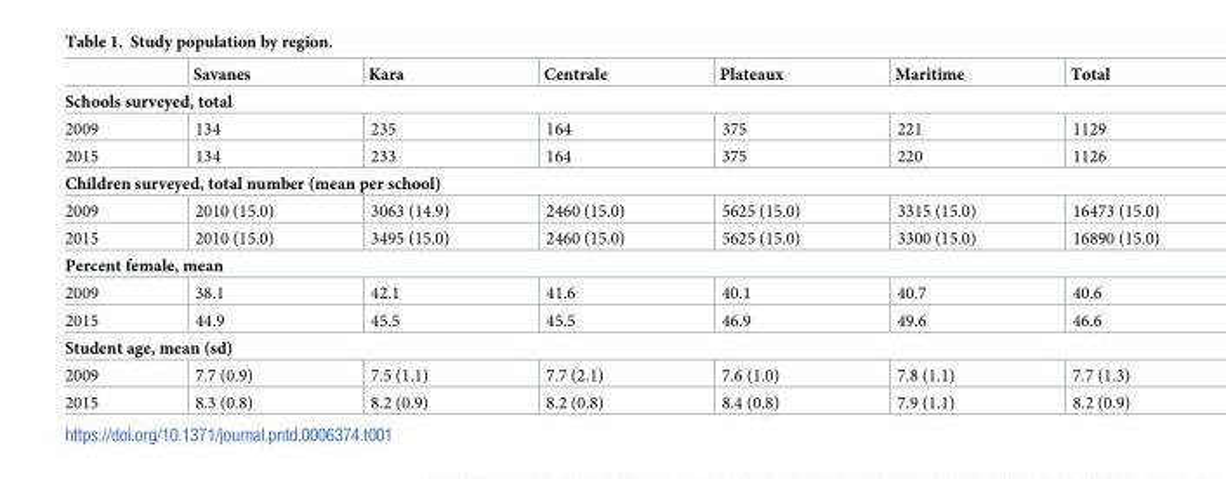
<table><thead><tr><td></td><td>Savanes</td><td>Kara</td><td>Centrale</td><td>Plateaux</td><td>Maritime</td><td>Total</td></tr></thead><tbody><tr><td colspan="7">Schools surveyed, total</td></tr><tr><td>2009</td><td>134</td><td>235</td><td>164</td><td>375</td><td>221</td><td>1129</td></tr><tr><td>2015</td><td>134</td><td>233</td><td>164</td><td>375</td><td>220</td><td>1126</td></tr><tr><td colspan="7">Children surveyed, total number (mean per school)</td></tr><tr><td>2009</td><td>2010 (15.0)</td><td>3063 (14.9)</td><td>2460 (15.0)</td><td>5625 (15.0)</td><td>3315 (15.0)</td><td>16473 (15.0)</td></tr><tr><td>2015</td><td>2010 (15.0)</td><td>3495 (15.0)</td><td>2460 (15.0)</td><td>5625 (15.0)</td><td>3300 (15.0)</td><td>16890 (15.0)</td></tr><tr><td colspan="7">Percent female, mean</td></tr><tr><td>2009</td><td>38.1</td><td>42.1</td><td>41.6</td><td>40.1</td><td>40.7</td><td>40.6</td></tr><tr><td>2015</td><td>44.9</td><td>45.5</td><td>45.5</td><td>46.9</td><td>49.6</td><td>46.6</td></tr><tr><td colspan="7">Student age, mean (sd)</td></tr><tr><td>2009</td><td>7.7 (0.9)</td><td>7.5 (1.1)</td><td>7.7 (2.1)</td><td>7.6 (1.0)</td><td>7.8 (1.1)</td><td>7.7 (1.3)</td></tr><tr><td>2015</td><td>8.3 (0.8)</td><td>8.2 (0.9)</td><td>8.2 (0.8)</td><td>8.4 (0.8)</td><td>7.9 (1.1)</td><td>8.2 (0.9)</td></tr></tbody></table>